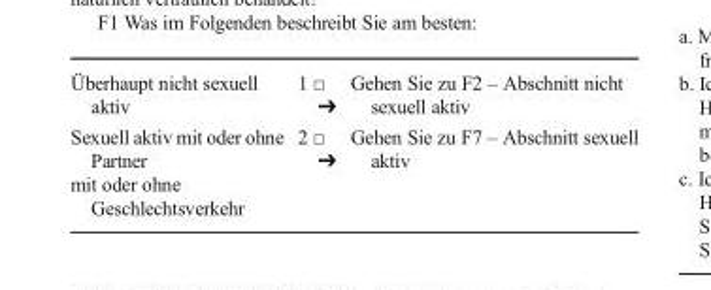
<table><tbody><tr><td>Überhaupt nicht sexuell aktiv</td><td>1 □ ➔</td><td>Gehen Sie zu F2 – Abschnitt nicht sexuell aktiv</td></tr><tr><td>Sexuell aktiv mit oder ohne Partner mit oder ohne Geschlechtsverkehr</td><td>2 □ ➔</td><td>Gehen Sie zu F7 – Abschnitt sexuell aktiv</td></tr></tbody></table>